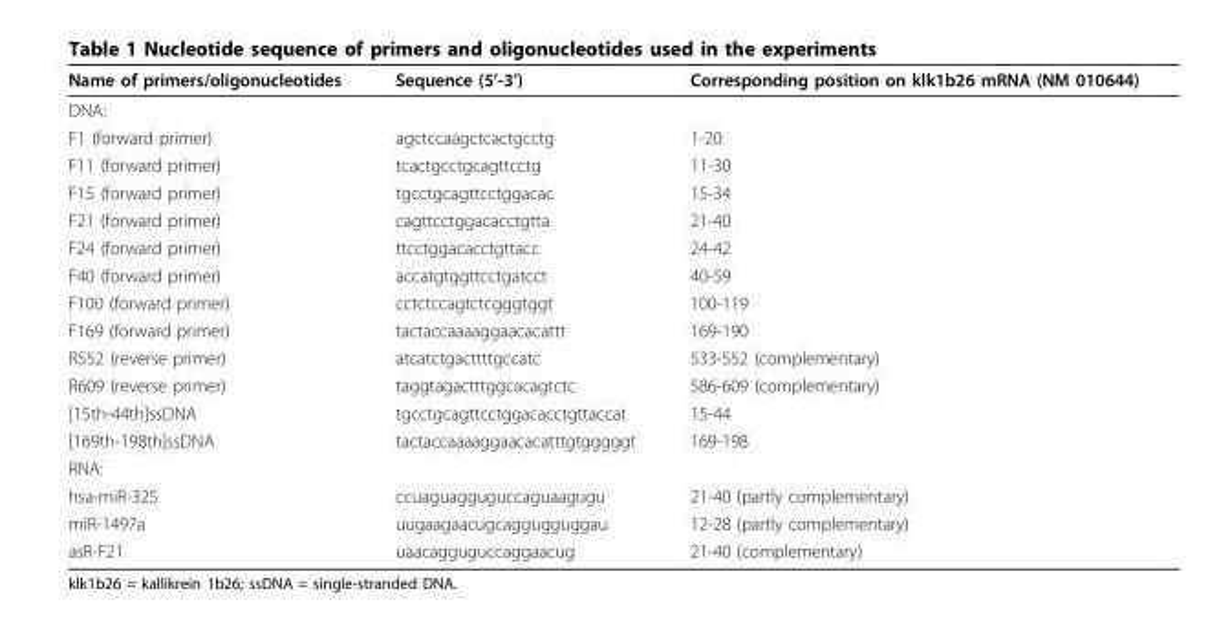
<table><thead><tr><td>Name of primers/oligonucleotides</td><td>Sequence (5’-3’)</td><td>Corresponding position on klk1b26 mRNA (NM 010644)</td></tr></thead><tbody><tr><td colspan="3">DNA:</td></tr><tr><td>F1 (forward primer)</td><td>agctccaagctcactgcctg</td><td>1-20</td></tr><tr><td>F11 (forward primer)</td><td>tcactgcctgcagttcctg</td><td>11-30</td></tr><tr><td>F15 (forward primer)</td><td>tgcctgcagttcctggacac</td><td>15-34</td></tr><tr><td>F21 (forward primer)</td><td>cagttcctggacacctgtta</td><td>21-40</td></tr><tr><td>F24 (forward primer)</td><td>ttcctggacacctgttacc</td><td>24-42</td></tr><tr><td>F40 (forward primer)</td><td>accatgtggttcctgatcct</td><td>40-59</td></tr><tr><td>F100 (forward primer)</td><td>cctctccagtctcgggtggt</td><td>100-119</td></tr><tr><td>F169 (forward primer)</td><td>tactaccaaaaggaacacattt</td><td>169-190</td></tr><tr><td>R552 (reverse primer)</td><td>atcatctgacttttgccatc</td><td>533-552 (complementary)</td></tr><tr><td>R609 (reverse primer)</td><td>taggtagactttggcacagtctc</td><td>586-609 (complementary)</td></tr><tr><td>[15th-44th]ssDNA</td><td>tgcctgcagttcctggacacctgttaccat</td><td>15-44</td></tr><tr><td>[169th-198th]ssDNA</td><td>tactaccaaaaggaacacatttgtgggggt</td><td>169-198</td></tr><tr><td colspan="3">RNA:</td></tr><tr><td>hsa-miR-325</td><td>ccuaguagguguccaguaagugu</td><td>21-40 (partly complementary)</td></tr><tr><td>miR-1497a</td><td>uugaagaacugcaggugguggau</td><td>12-28 (partly complementary)</td></tr><tr><td>asR-F21</td><td>uaacagguguccaggaacug</td><td>21-40 (complementary)</td></tr></tbody></table>